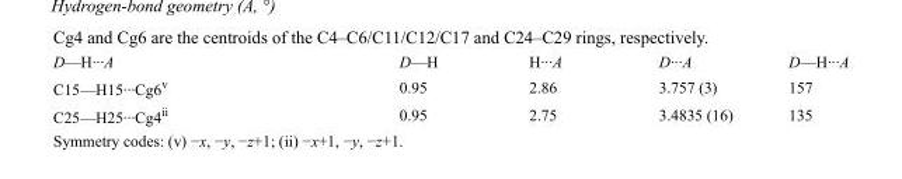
<table><tbody><tr><td>D—H···A</td><td>D—H</td><td>H···A</td><td>D···A</td><td>D—H···A</td></tr><tr><td>C15—H15···Cg6<sup>v</sup></td><td>0.95</td><td>2.86</td><td>3.757 (3)</td><td>157</td></tr><tr><td>C25—H25···Cg4<sup>ii</sup></td><td>0.95</td><td>2.75</td><td>3.4835 (16)</td><td>135</td></tr></tbody></table>